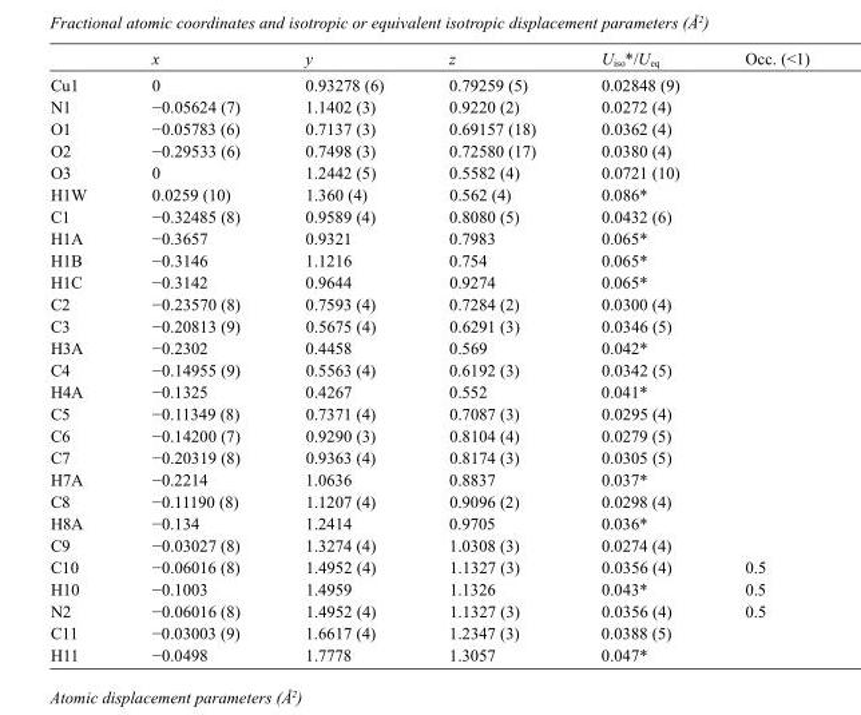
<table><thead><tr><td></td><td>x</td><td>y</td><td>z</td><td>U<sub>iso</sub>*/U<sub>eq</sub></td><td>Occ. (&lt;1)</td></tr></thead><tbody><tr><td>Cu1</td><td>0</td><td>0.93278 (6)</td><td>0.79259 (5)</td><td>0.02848 (9)</td><td></td></tr><tr><td>N1</td><td>−0.05624 (7)</td><td>1.1402 (3)</td><td>0.9220 (2)</td><td>0.0272 (4)</td><td></td></tr><tr><td>O1</td><td>−0.05783 (6)</td><td>0.7137 (3)</td><td>0.69157 (18)</td><td>0.0362 (4)</td><td></td></tr><tr><td>O2</td><td>−0.29533 (6)</td><td>0.7498 (3)</td><td>0.72580 (17)</td><td>0.0380 (4)</td><td></td></tr><tr><td>O3</td><td>0</td><td>1.2442 (5)</td><td>0.5582 (4)</td><td>0.0721 (10)</td><td></td></tr><tr><td>H1W</td><td>0.0259 (10)</td><td>1.360 (4)</td><td>0.562 (4)</td><td>0.086*</td><td></td></tr><tr><td>C1</td><td>−0.32485 (8)</td><td>0.9589 (4)</td><td>0.8080 (5)</td><td>0.0432 (6)</td><td></td></tr><tr><td>H1A</td><td>−0.3657</td><td>0.9321</td><td>0.7983</td><td>0.065*</td><td></td></tr><tr><td>H1B</td><td>−0.3146</td><td>1.1216</td><td>0.754</td><td>0.065*</td><td></td></tr><tr><td>H1C</td><td>−0.3142</td><td>0.9644</td><td>0.9274</td><td>0.065*</td><td></td></tr><tr><td>C2</td><td>−0.23570 (8)</td><td>0.7593 (4)</td><td>0.7284 (2)</td><td>0.0300 (4)</td><td></td></tr><tr><td>C3</td><td>−0.20813 (9)</td><td>0.5675 (4)</td><td>0.6291 (3)</td><td>0.0346 (5)</td><td></td></tr><tr><td>H3A</td><td>−0.2302</td><td>0.4458</td><td>0.569</td><td>0.042*</td><td></td></tr><tr><td>C4</td><td>−0.14955 (9)</td><td>0.5563 (4)</td><td>0.6192 (3)</td><td>0.0342 (5)</td><td></td></tr><tr><td>H4A</td><td>−0.1325</td><td>0.4267</td><td>0.552</td><td>0.041*</td><td></td></tr><tr><td>C5</td><td>−0.11349 (8)</td><td>0.7371 (4)</td><td>0.7087 (3)</td><td>0.0295 (4)</td><td></td></tr><tr><td>C6</td><td>−0.14200 (7)</td><td>0.9290 (3)</td><td>0.8104 (4)</td><td>0.0279 (5)</td><td></td></tr><tr><td>C7</td><td>−0.20319 (8)</td><td>0.9363 (4)</td><td>0.8174 (3)</td><td>0.0305 (5)</td><td></td></tr><tr><td>H7A</td><td>−0.2214</td><td>1.0636</td><td>0.8837</td><td>0.037*</td><td></td></tr><tr><td>C8</td><td>−0.11190 (8)</td><td>1.1207 (4)</td><td>0.9096 (2)</td><td>0.0298 (4)</td><td></td></tr><tr><td>H8A</td><td>−0.134</td><td>1.2414</td><td>0.9705</td><td>0.036*</td><td></td></tr><tr><td>C9</td><td>−0.03027 (8)</td><td>1.3274 (4)</td><td>1.0308 (3)</td><td>0.0274 (4)</td><td></td></tr><tr><td>C10</td><td>−0.06016 (8)</td><td>1.4952 (4)</td><td>1.1327 (3)</td><td>0.0356 (4)</td><td>0.5</td></tr><tr><td>H10</td><td>−0.1003</td><td>1.4959</td><td>1.1326</td><td>0.043*</td><td>0.5</td></tr><tr><td>N2</td><td>−0.06016 (8)</td><td>1.4952 (4)</td><td>1.1327 (3)</td><td>0.0356 (4)</td><td>0.5</td></tr><tr><td>C11</td><td>−0.03003 (9)</td><td>1.6617 (4)</td><td>1.2347 (3)</td><td>0.0388 (5)</td><td></td></tr><tr><td>H11</td><td>−0.0498</td><td>1.7778</td><td>1.3057</td><td>0.047*</td><td></td></tr></tbody></table>